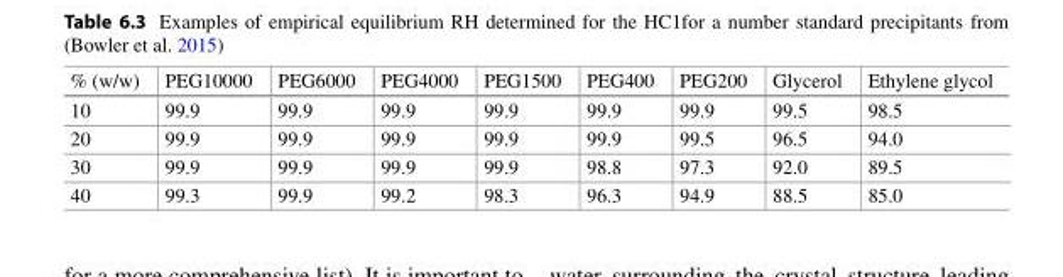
<table><thead><tr><td>% (w/w)</td><td>PEG10000</td><td>PEG6000</td><td>PEG4000</td><td>PEG1500</td><td>PEG400</td><td>PEG200</td><td>Glycerol</td><td>Ethylene glycol</td></tr></thead><tbody><tr><td>10</td><td>99.9</td><td>99.9</td><td>99.9</td><td>99.9</td><td>99.9</td><td>99.9</td><td>99.5</td><td>98.5</td></tr><tr><td>20</td><td>99.9</td><td>99.9</td><td>99.9</td><td>99.9</td><td>99.9</td><td>99.5</td><td>96.5</td><td>94.0</td></tr><tr><td>30</td><td>99.9</td><td>99.9</td><td>99.9</td><td>99.9</td><td>98.8</td><td>97.3</td><td>92.0</td><td>89.5</td></tr><tr><td>40</td><td>99.3</td><td>99.9</td><td>99.2</td><td>98.3</td><td>96.3</td><td>94.9</td><td>88.5</td><td>85.0</td></tr></tbody></table>